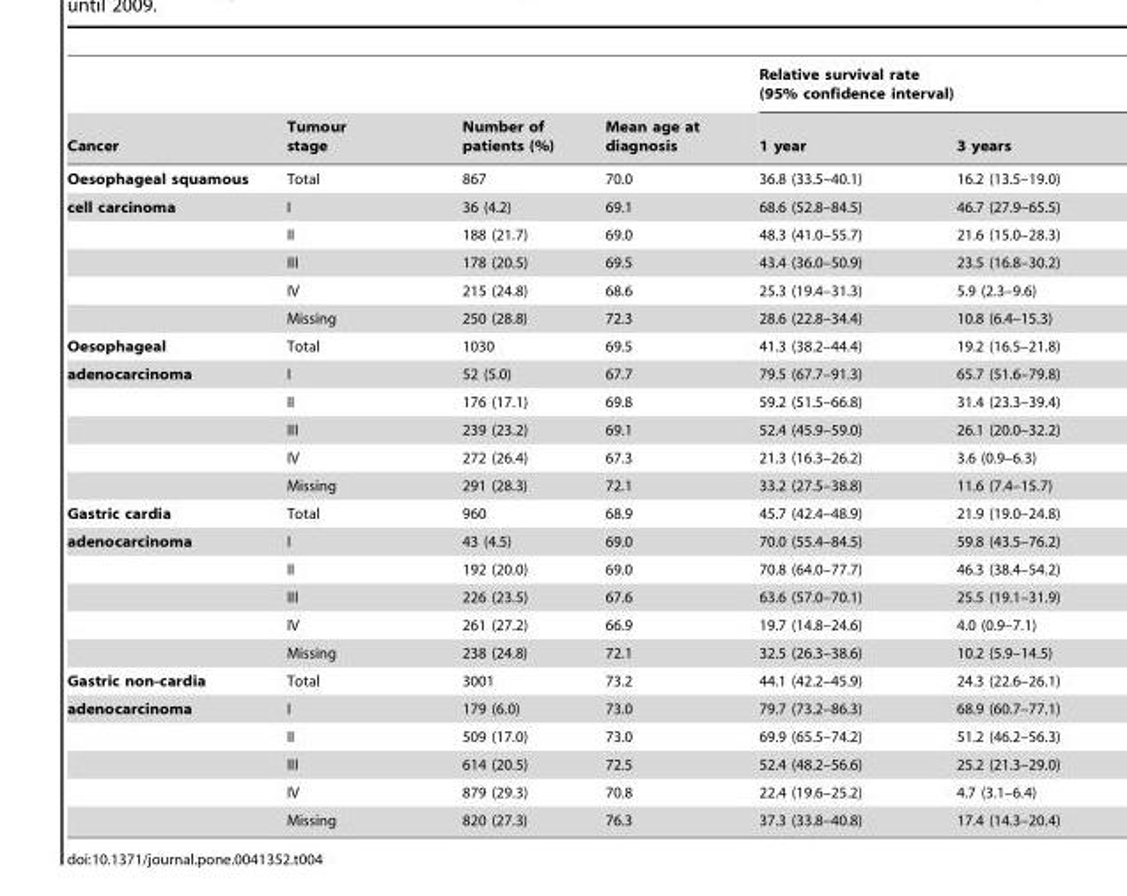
<table><thead><tr><td rowspan="2">Cancer</td><td rowspan="2">Tumour stage</td><td rowspan="2">Number of patients (%)</td><td rowspan="2">Mean age at diagnosis</td><td colspan="2">Relative survival rate (95% confidence interval)</td></tr><tr><td>1 year</td><td>3 years</td></tr></thead><tbody><tr><td>Oesophageal squamous</td><td>Total</td><td>867</td><td>70.0</td><td>36.8 (33.5–40.1)</td><td>16.2 (13.5–19.0)</td></tr><tr><td rowspan="5">cell carcinoma</td><td>I</td><td>36 (4.2)</td><td>69.1</td><td>68.6 (52.8–84.5)</td><td>46.7 (27.9–65.5)</td></tr><tr><td>II</td><td>188 (21.7)</td><td>69.0</td><td>48.3 (41.0–55.7)</td><td>21.6 (15.0–28.3)</td></tr><tr><td>III</td><td>178 (20.5)</td><td>69.5</td><td>43.4 (36.0–50.9)</td><td>23.5 (16.8–30.2)</td></tr><tr><td>IV</td><td>215 (24.8)</td><td>68.6</td><td>25.3 (19.4–31.3)</td><td>5.9 (2.3–9.6)</td></tr><tr><td>Missing</td><td>250 (28.8)</td><td>72.3</td><td>28.6 (22.8–34.4)</td><td>10.8 (6.4–15.3)</td></tr><tr><td>Oesophageal</td><td>Total</td><td>1030</td><td>69.5</td><td>41.3 (38.2–44.4)</td><td>19.2 (16.5–21.8)</td></tr><tr><td rowspan="5">adenocarcinoma</td><td>I</td><td>52 (5.0)</td><td>67.7</td><td>79.5 (67.7–91.3)</td><td>65.7 (51.6–79.8)</td></tr><tr><td>II</td><td>176 (17.1)</td><td>69.8</td><td>59.2 (51.5–66.8)</td><td>31.4 (23.3–39.4)</td></tr><tr><td>III</td><td>239 (23.2)</td><td>69.1</td><td>52.4 (45.9–59.0)</td><td>26.1 (20.0–32.2)</td></tr><tr><td>IV</td><td>272 (26.4)</td><td>67.3</td><td>21.3 (16.3–26.2)</td><td>3.6 (0.9–6.3)</td></tr><tr><td>Missing</td><td>291 (28.3)</td><td>72.1</td><td>33.2 (27.5–38.8)</td><td>11.6 (7.4–15.7)</td></tr><tr><td>Gastric cardia</td><td>Total</td><td>960</td><td>68.9</td><td>45.7 (42.4–48.9)</td><td>21.9 (19.0–24.8)</td></tr><tr><td rowspan="5">adenocarcinoma</td><td>I</td><td>43 (4.5)</td><td>69.0</td><td>70.0 (55.4–84.5)</td><td>59.8 (43.5–76.2)</td></tr><tr><td>II</td><td>192 (20.0)</td><td>69.0</td><td>70.8 (64.0–77.7)</td><td>46.3 (38.4–54.2)</td></tr><tr><td>III</td><td>226 (23.5)</td><td>67.6</td><td>63.6 (57.0–70.1)</td><td>25.5 (19.1–31.9)</td></tr><tr><td>IV</td><td>261 (27.2)</td><td>66.9</td><td>19.7 (14.8–24.6)</td><td>4.0 (0.9–7.1)</td></tr><tr><td>Missing</td><td>238 (24.8)</td><td>72.1</td><td>32.5 (26.3–38.6)</td><td>10.2 (5.9–14.5)</td></tr><tr><td>Gastric non-cardia</td><td>Total</td><td>3001</td><td>73.2</td><td>44.1 (42.2–45.9)</td><td>24.3 (22.6–26.1)</td></tr><tr><td rowspan="5">adenocarcinoma</td><td>I</td><td>179 (6.0)</td><td>73.0</td><td>79.7 (73.2–86.3)</td><td>68.9 (60.7–77.1)</td></tr><tr><td>II</td><td>509 (17.0)</td><td>73.0</td><td>69.9 (65.5–74.2)</td><td>51.2 (46.2–56.3)</td></tr><tr><td>III</td><td>614 (20.5)</td><td>72.5</td><td>52.4 (48.2–56.6)</td><td>25.2 (21.3–29.0)</td></tr><tr><td>IV</td><td>879 (29.3)</td><td>70.8</td><td>22.4 (19.6–25.2)</td><td>4.7 (3.1–6.4)</td></tr><tr><td>Missing</td><td>820 (27.3)</td><td>76.3</td><td>37.3 (33.8–40.8)</td><td>17.4 (14.3–20.4)</td></tr></tbody></table>